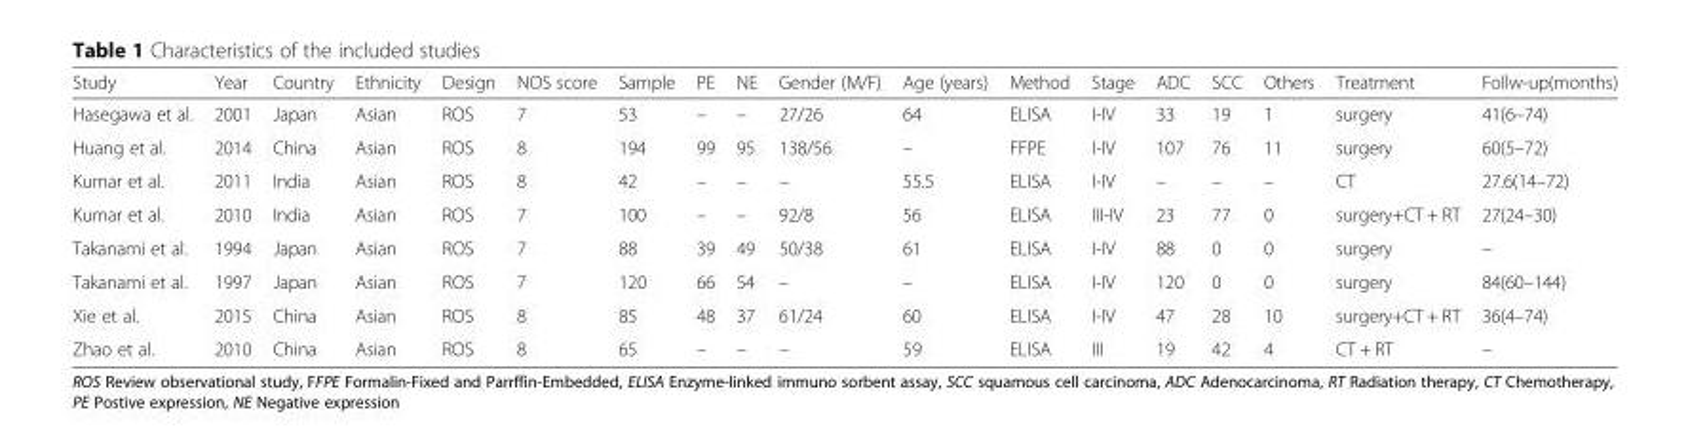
<table><thead><tr><td>Study</td><td>Year</td><td>Country</td><td>Ethnicity</td><td>Design</td><td>NOS score</td><td>Sample</td><td>PE</td><td>NE</td><td>Gender (M/F)</td><td>Age (years)</td><td>Method</td><td>Stage</td><td>ADC</td><td>SCC</td><td>Others</td><td>Treatment</td><td>Follw-up(months)</td></tr></thead><tbody><tr><td>Hasegawa et al.</td><td>2001</td><td>Japan</td><td>Asian</td><td>ROS</td><td>7</td><td>53</td><td>–</td><td>–</td><td>27/26</td><td>64</td><td>ELISA</td><td>I-IV</td><td>33</td><td>19</td><td>1</td><td>surgery</td><td>41(6–74)</td></tr><tr><td>Huang et al.</td><td>2014</td><td>China</td><td>Asian</td><td>ROS</td><td>8</td><td>194</td><td>99</td><td>95</td><td>138/56</td><td>–</td><td>FFPE</td><td>I-IV</td><td>107</td><td>76</td><td>11</td><td>surgery</td><td>60(5–72)</td></tr><tr><td>Kumar et al.</td><td>2011</td><td>India</td><td>Asian</td><td>ROS</td><td>8</td><td>42</td><td>–</td><td>–</td><td>–</td><td>55.5</td><td>ELISA</td><td>I-IV</td><td>–</td><td>–</td><td>–</td><td>CT</td><td>27.6(14–72)</td></tr><tr><td>Kumar et al.</td><td>2010</td><td>India</td><td>Asian</td><td>ROS</td><td>7</td><td>100</td><td>–</td><td>–</td><td>92/8</td><td>56</td><td>ELISA</td><td>III-IV</td><td>23</td><td>77</td><td>0</td><td>surgery+CT + RT</td><td>27(24–30)</td></tr><tr><td>Takanami et al.</td><td>1994</td><td>Japan</td><td>Asian</td><td>ROS</td><td>7</td><td>88</td><td>39</td><td>49</td><td>50/38</td><td>61</td><td>ELISA</td><td>I-IV</td><td>88</td><td>0</td><td>0</td><td>surgery</td><td>–</td></tr><tr><td>Takanami et al.</td><td>1997</td><td>Japan</td><td>Asian</td><td>ROS</td><td>7</td><td>120</td><td>66</td><td>54</td><td>–</td><td>–</td><td>ELISA</td><td>I-IV</td><td>120</td><td>0</td><td>0</td><td>surgery</td><td>84(60–144)</td></tr><tr><td>Xie et al.</td><td>2015</td><td>China</td><td>Asian</td><td>ROS</td><td>8</td><td>85</td><td>48</td><td>37</td><td>61/24</td><td>60</td><td>ELISA</td><td>I-IV</td><td>47</td><td>28</td><td>10</td><td>surgery+CT + RT</td><td>36(4–74)</td></tr><tr><td>Zhao et al.</td><td>2010</td><td>China</td><td>Asian</td><td>ROS</td><td>8</td><td>65</td><td>–</td><td>–</td><td>–</td><td>59</td><td>ELISA</td><td>III</td><td>19</td><td>42</td><td>4</td><td>CT + RT</td><td>–</td></tr></tbody></table>